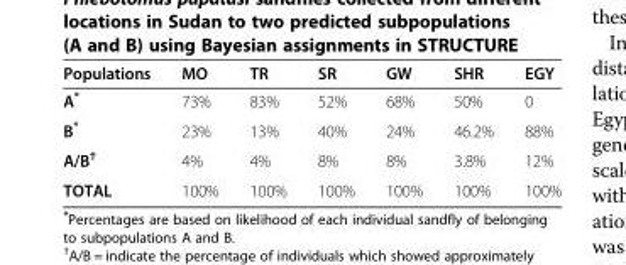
<table><thead><tr><td>Populations</td><td>MO</td><td>TR</td><td>SR</td><td>GW</td><td>SHR</td><td>EGY</td></tr></thead><tbody><tr><td>A*</td><td>73%</td><td>83%</td><td>52%</td><td>68%</td><td>50%</td><td>0</td></tr><tr><td>B*</td><td>23%</td><td>13%</td><td>40%</td><td>24%</td><td>46.2%</td><td>88%</td></tr><tr><td>A/B<sup>†</sup></td><td>4%</td><td>4%</td><td>8%</td><td>8%</td><td>3.8%</td><td>12%</td></tr><tr><td>TOTAL</td><td>100%</td><td>100%</td><td>100%</td><td>100%</td><td>100%</td><td>100%</td></tr></tbody></table>